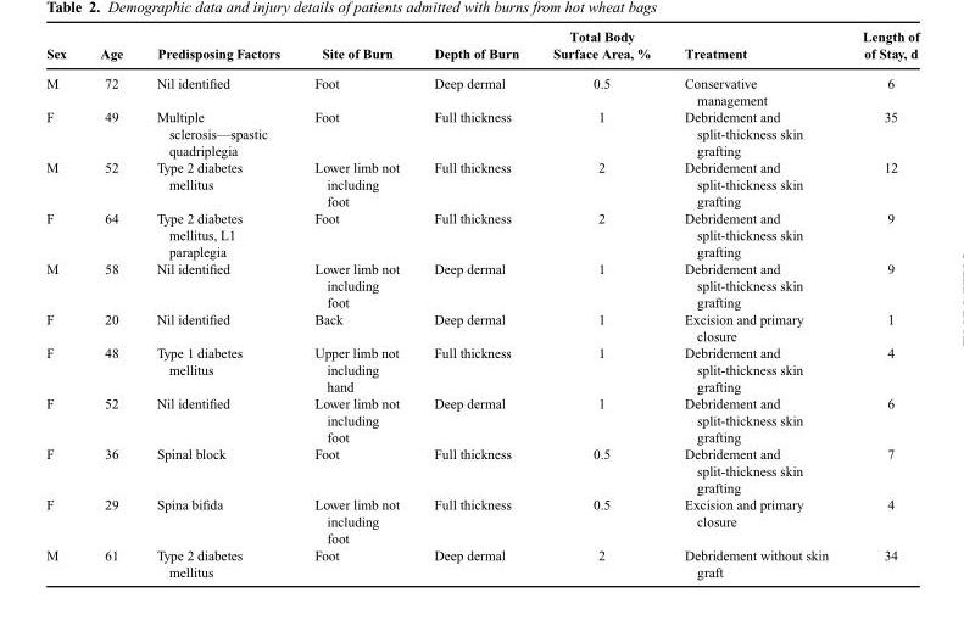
<table><thead><tr><td>Sex</td><td>Age</td><td>Predisposing Factors</td><td>Site of Burn</td><td>Depth of Burn</td><td>Surface Area, %</td><td>Treatment</td><td>of Stay, d</td></tr></thead><tbody><tr><td>M</td><td>72</td><td>Nil identified</td><td>Foot</td><td>Deep dermal</td><td>0.5</td><td>Conservative management</td><td>6</td></tr><tr><td>F</td><td>49</td><td>Multiple sclerosis—spastic quadriplegia</td><td>Foot</td><td>Full thickness</td><td>1</td><td>Debridement and split-thickness skin grafting</td><td>35</td></tr><tr><td>M</td><td>52</td><td>Type 2 diabetes mellitus</td><td>Lower limb not including foot</td><td>Full thickness</td><td>2</td><td>Debridement and split-thickness skin grafting</td><td>12</td></tr><tr><td>F</td><td>64</td><td>Type 2 diabetes mellitus, L1 paraplegia</td><td>Foot</td><td>Full thickness</td><td>2</td><td>Debridement and split-thickness skin grafting</td><td>9</td></tr><tr><td>M</td><td>58</td><td>Nil identified</td><td>Lower limb not including foot</td><td>Deep dermal</td><td>1</td><td>Debridement and split-thickness skin grafting</td><td>9</td></tr><tr><td>F</td><td>20</td><td>Nil identified</td><td>Back</td><td>Deep dermal</td><td>1</td><td>Excision and primary closure</td><td>1</td></tr><tr><td>F</td><td>48</td><td>Type 1 diabetes mellitus</td><td>Upper limb not including hand</td><td>Full thickness</td><td>1</td><td>Debridement and split-thickness skin grafting</td><td>4</td></tr><tr><td>F</td><td>52</td><td>Nil identified</td><td>Lower limb not including foot</td><td>Deep dermal</td><td>1</td><td>Debridement and split-thickness skin grafting</td><td>6</td></tr><tr><td>F</td><td>36</td><td>Spinal block</td><td>Foot</td><td>Full thickness</td><td>0.5</td><td>Debridement and split-thickness skin grafting</td><td>7</td></tr><tr><td>F</td><td>29</td><td>Spina bifida</td><td>Lower limb not including foot</td><td>Full thickness</td><td>0.5</td><td>Excision and primary closure</td><td>4</td></tr><tr><td>M</td><td>61</td><td>Type 2 diabetes mellitus</td><td>Foot</td><td>Deep dermal</td><td>2</td><td>Debridement without skin graft</td><td>34</td></tr></tbody></table>